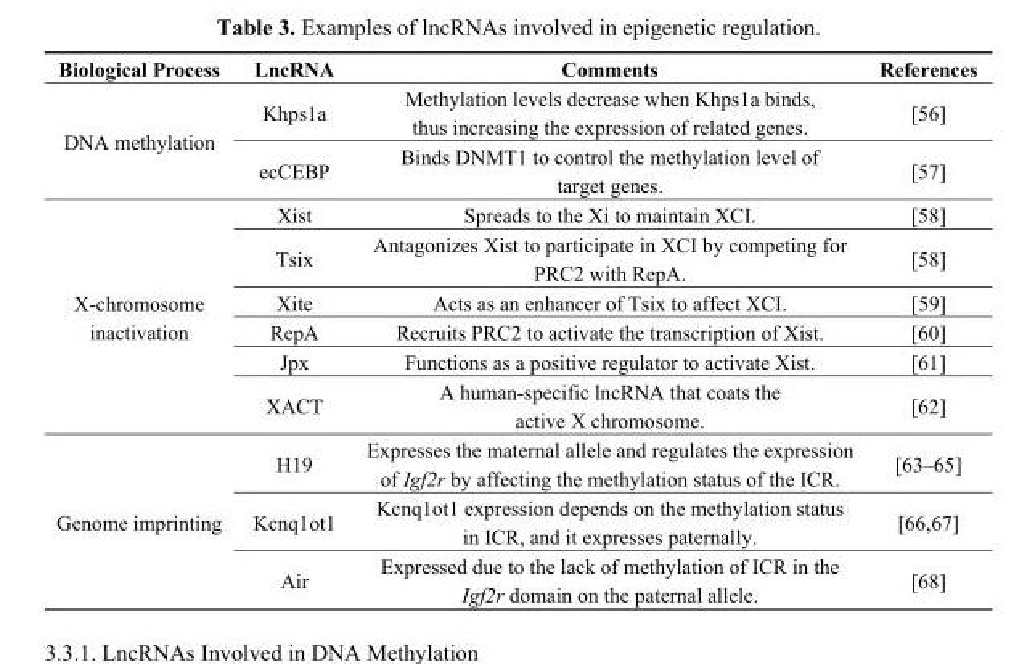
<table><thead><tr><td>Biological Process</td><td>LncRNA</td><td>Comments</td><td>References</td></tr></thead><tbody><tr><td rowspan="2">DNA methylation</td><td>Khps1a</td><td>Methylation levels decrease when Khps1a binds, thus increasing the expression of related genes.</td><td>[56]</td></tr><tr><td>ecCEBP</td><td>Binds DNMT1 to control the methylation level of target genes.</td><td>[57]</td></tr><tr><td rowspan="6">X-chromosome inactivation</td><td>Xist</td><td>Spreads to the Xi to maintain XCI.</td><td>[58]</td></tr><tr><td>Tsix</td><td>Antagonizes Xist to participate in XCI by competing for PRC2 with RepA.</td><td>[58]</td></tr><tr><td>Xite</td><td>Acts as an enhancer of Tsix to affect XCI.</td><td>[59]</td></tr><tr><td>RepA</td><td>Recruits PRC2 to activate the transcription of Xist.</td><td>[60]</td></tr><tr><td>Jpx</td><td>Functions as a positive regulator to activate Xist.</td><td>[61]</td></tr><tr><td>XACT</td><td>A human-specific lncRNA that coats the active X chromosome.</td><td>[62]</td></tr><tr><td rowspan="3">Genome imprinting</td><td>H19</td><td>Expresses the maternal allele and regulates the expression of Igf2r by affecting the methylation status of the ICR.</td><td>[63–65]</td></tr><tr><td>Kcnq1ot1</td><td>Kcnq1ot1 expression depends on the methylation status in ICR, and it expresses paternally.</td><td>[66,67]</td></tr><tr><td>Air</td><td>Expressed due to the lack of methylation of ICR in the Igf2r domain on the paternal allele.</td><td>[68]</td></tr></tbody></table>